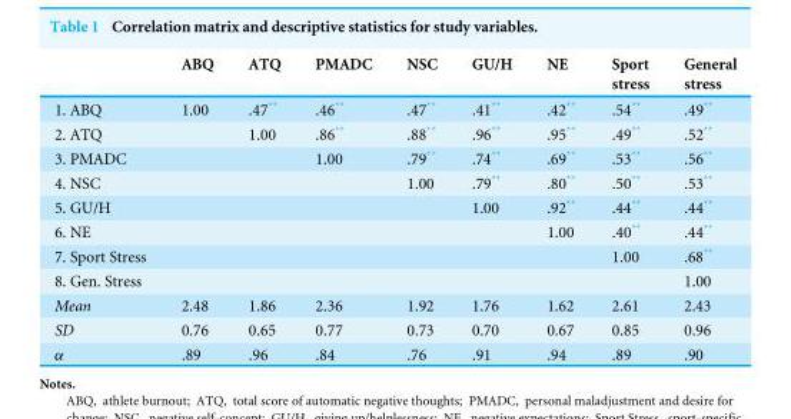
<table><thead><tr><td></td><td>ABQ</td><td>ATQ</td><td>PMADC</td><td>NSC</td><td>GU/H</td><td>NE</td><td>Sport stress</td><td>General stress</td></tr></thead><tbody><tr><td>1. ABQ</td><td>1.00</td><td>.47**</td><td>.46**</td><td>.47**</td><td>.41**</td><td>.42**</td><td>.54**</td><td>.49**</td></tr><tr><td>2. ATQ</td><td></td><td>1.00</td><td>.86**</td><td>.88**</td><td>.96**</td><td>.95**</td><td>.49**</td><td>.52**</td></tr><tr><td>3. PMADC</td><td></td><td></td><td>1.00</td><td>.79**</td><td>.74**</td><td>.69**</td><td>.53**</td><td>.56**</td></tr><tr><td>4. NSC</td><td></td><td></td><td></td><td>1.00</td><td>.79**</td><td>.80**</td><td>.50**</td><td>.53**</td></tr><tr><td>5. GU/H</td><td></td><td></td><td></td><td></td><td>1.00</td><td>.92**</td><td>.44**</td><td>.44**</td></tr><tr><td>6. NE</td><td></td><td></td><td></td><td></td><td></td><td>1.00</td><td>.40**</td><td>.44**</td></tr><tr><td>7. Sport Stress</td><td></td><td></td><td></td><td></td><td></td><td></td><td>1.00</td><td>.68**</td></tr><tr><td>8. Gen. Stress</td><td></td><td></td><td></td><td></td><td></td><td></td><td></td><td>1.00</td></tr><tr><td>Mean</td><td>2.48</td><td>1.86</td><td>2.36</td><td>1.92</td><td>1.76</td><td>1.62</td><td>2.61</td><td>2.43</td></tr><tr><td>SD</td><td>0.76</td><td>0.65</td><td>0.77</td><td>0.73</td><td>0.70</td><td>0.67</td><td>0.85</td><td>0.96</td></tr><tr><td>α</td><td>.89</td><td>.96</td><td>.84</td><td>.76</td><td>.91</td><td>.94</td><td>.89</td><td>.90</td></tr></tbody></table>